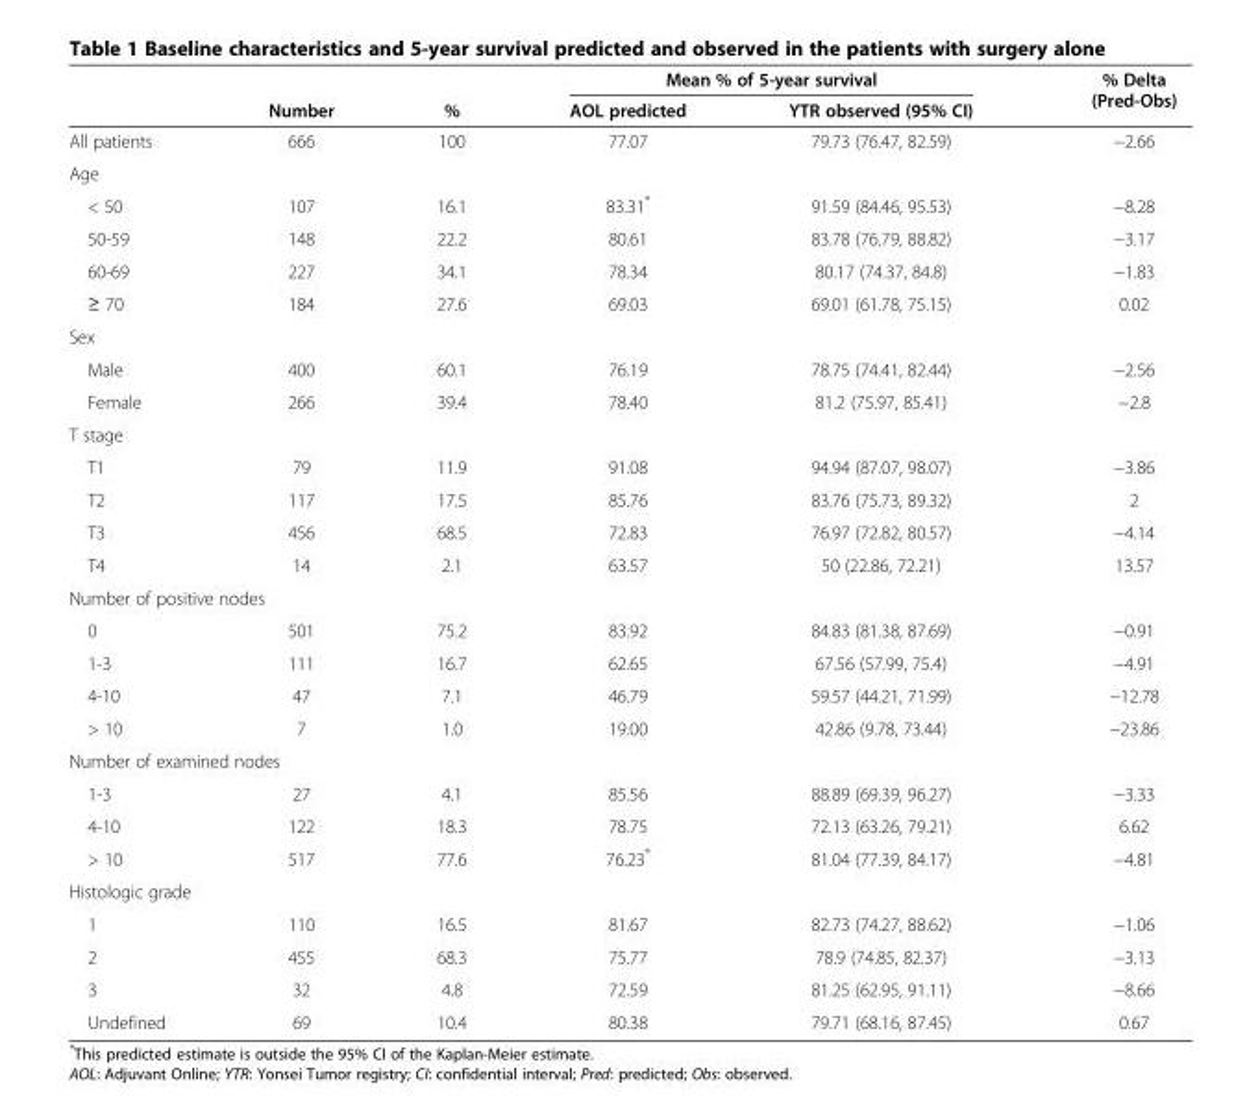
<table><thead><tr><td rowspan="2"></td><td rowspan="2">Number</td><td rowspan="2">%</td><td colspan="2">Mean % of 5-year survival</td><td rowspan="2">% Delta (Pred-Obs)</td></tr><tr><td>AOL predicted</td><td>YTR observed (95% CI)</td></tr></thead><tbody><tr><td>All patients</td><td>666</td><td>100</td><td>77.07</td><td>79.73 (76.47, 82.59)</td><td>−2.66</td></tr><tr><td colspan="6">Age</td></tr><tr><td>&lt; 50</td><td>107</td><td>16.1</td><td>83.31*</td><td>91.59 (84.46, 95.53)</td><td>−8.28</td></tr><tr><td>50-59</td><td>148</td><td>22.2</td><td>80.61</td><td>83.78 (76.79, 88.82)</td><td>−3.17</td></tr><tr><td>60-69</td><td>227</td><td>34.1</td><td>78.34</td><td>80.17 (74.37, 84.8)</td><td>−1.83</td></tr><tr><td>≥ 70</td><td>184</td><td>27.6</td><td>69.03</td><td>69.01 (61.78, 75.15)</td><td>0.02</td></tr><tr><td colspan="6">Sex</td></tr><tr><td>Male</td><td>400</td><td>60.1</td><td>76.19</td><td>78.75 (74.41, 82.44)</td><td>−2.56</td></tr><tr><td>Female</td><td>266</td><td>39.4</td><td>78.40</td><td>81.2 (75.97, 85.41)</td><td>−2.8</td></tr><tr><td colspan="6">T stage</td></tr><tr><td>T1</td><td>79</td><td>11.9</td><td>91.08</td><td>94.94 (87.07, 98.07)</td><td>−3.86</td></tr><tr><td>T2</td><td>117</td><td>17.5</td><td>85.76</td><td>83.76 (75.73, 89.32)</td><td>2</td></tr><tr><td>T3</td><td>456</td><td>68.5</td><td>72.83</td><td>76.97 (72.82, 80.57)</td><td>−4.14</td></tr><tr><td>T4</td><td>14</td><td>2.1</td><td>63.57</td><td>50 (22.86, 72.21)</td><td>13.57</td></tr><tr><td colspan="6">Number of positive nodes</td></tr><tr><td>0</td><td>501</td><td>75.2</td><td>83.92</td><td>84.83 (81.38, 87.69)</td><td>−0.91</td></tr><tr><td>1-3</td><td>111</td><td>16.7</td><td>62.65</td><td>67.56 (57.99, 75.4)</td><td>−4.91</td></tr><tr><td>4-10</td><td>47</td><td>7.1</td><td>46.79</td><td>59.57 (44.21, 71.99)</td><td>−12.78</td></tr><tr><td>&gt; 10</td><td>7</td><td>1.0</td><td>19.00</td><td>42.86 (9.78, 73.44)</td><td>−23.86</td></tr><tr><td colspan="6">Number of examined nodes</td></tr><tr><td>1-3</td><td>27</td><td>4.1</td><td>85.56</td><td>88.89 (69.39, 96.27)</td><td>−3.33</td></tr><tr><td>4-10</td><td>122</td><td>18.3</td><td>78.75</td><td>72.13 (63.26, 79.21)</td><td>6.62</td></tr><tr><td>&gt; 10</td><td>517</td><td>77.6</td><td>76.23*</td><td>81.04 (77.39, 84.17)</td><td>−4.81</td></tr><tr><td colspan="6">Histologic grade</td></tr><tr><td>1</td><td>110</td><td>16.5</td><td>81.67</td><td>82.73 (74.27, 88.62)</td><td>−1.06</td></tr><tr><td>2</td><td>455</td><td>68.3</td><td>75.77</td><td>78.9 (74.85, 82.37)</td><td>−3.13</td></tr><tr><td>3</td><td>32</td><td>4.8</td><td>72.59</td><td>81.25 (62.95, 91.11)</td><td>−8.66</td></tr><tr><td>Undefined</td><td>69</td><td>10.4</td><td>80.38</td><td>79.71 (68.16, 87.45)</td><td>0.67</td></tr></tbody></table>